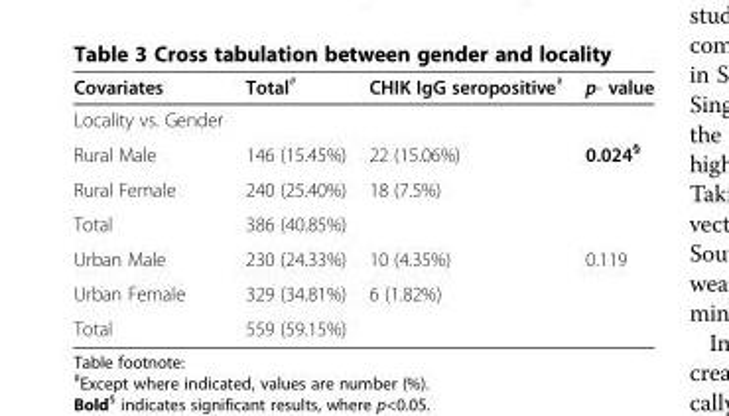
<table><thead><tr><td>Covariates</td><td>Total<sup>#</sup></td><td>CHIK IgG seropositive<sup>#</sup></td><td>p- value</td></tr></thead><tbody><tr><td colspan="4">Locality vs. Gender</td></tr><tr><td>Rural Male</td><td>146 (15.45%)</td><td>22 (15.06%)</td><td>0.024<sup>§</sup></td></tr><tr><td>Rural Female</td><td>240 (25.40%)</td><td>18 (7.5%)</td><td></td></tr><tr><td>Total</td><td>386 (40.85%)</td><td></td><td></td></tr><tr><td>Urban Male</td><td>230 (24.33%)</td><td>10 (4.35%)</td><td>0.119</td></tr><tr><td>Urban Female</td><td>329 (34.81%)</td><td>6 (1.82%)</td><td></td></tr><tr><td>Total</td><td>559 (59.15%)</td><td></td><td></td></tr></tbody></table>